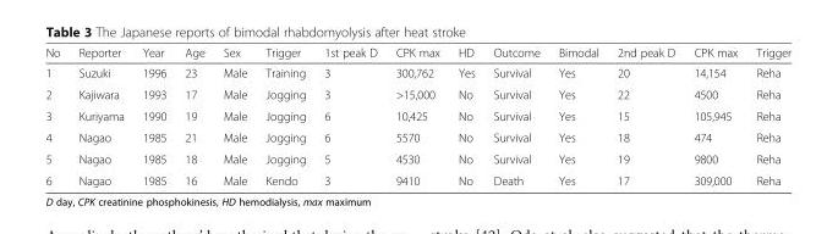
<table><thead><tr><td>No</td><td>Reporter</td><td>Year</td><td>Age</td><td>Sex</td><td>Trigger</td><td>1st peak D</td><td>CPK max</td><td>HD</td><td>Outcome</td><td>Bimodal</td><td>2nd peak D</td><td>CPK max</td><td>Trigger</td></tr></thead><tbody><tr><td>1</td><td>Suzuki</td><td>1996</td><td>23</td><td>Male</td><td>Training</td><td>3</td><td>300,762</td><td>Yes</td><td>Survival</td><td>Yes</td><td>20</td><td>14,154</td><td>Reha</td></tr><tr><td>2</td><td>Kajiwara</td><td>1993</td><td>17</td><td>Male</td><td>Jogging</td><td>3</td><td>&gt;15,000</td><td>No</td><td>Survival</td><td>Yes</td><td>22</td><td>4500</td><td>Reha</td></tr><tr><td>3</td><td>Kuriyama</td><td>1990</td><td>19</td><td>Male</td><td>Jogging</td><td>6</td><td>10,425</td><td>No</td><td>Survival</td><td>Yes</td><td>15</td><td>105,945</td><td>Reha</td></tr><tr><td>4</td><td>Nagao</td><td>1985</td><td>21</td><td>Male</td><td>Jogging</td><td>6</td><td>5570</td><td>No</td><td>Survival</td><td>Yes</td><td>18</td><td>474</td><td>Reha</td></tr><tr><td>5</td><td>Nagao</td><td>1985</td><td>18</td><td>Male</td><td>Jogging</td><td>5</td><td>4530</td><td>No</td><td>Survival</td><td>Yes</td><td>19</td><td>9800</td><td>Reha</td></tr><tr><td>6</td><td>Nagao</td><td>1985</td><td>16</td><td>Male</td><td>Kendo</td><td>3</td><td>9410</td><td>No</td><td>Death</td><td>Yes</td><td>17</td><td>309,000</td><td>Reha</td></tr></tbody></table>